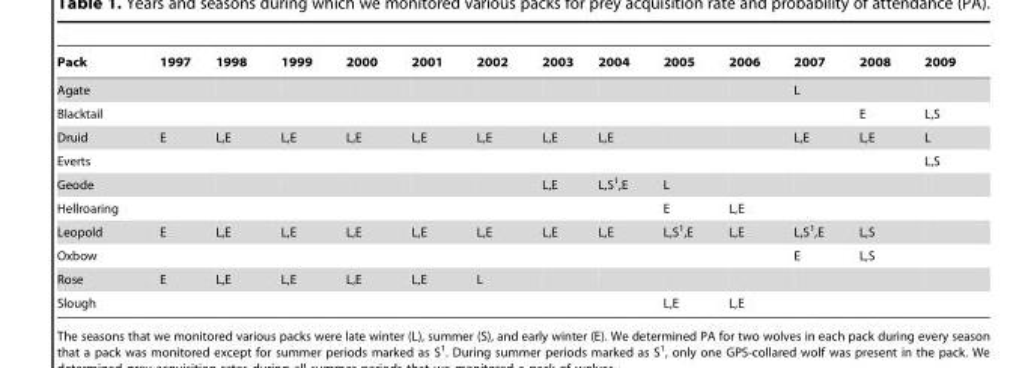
<table><thead><tr><td>Pack</td><td>1997</td><td>1998</td><td>1999</td><td>2000</td><td>2001</td><td>2002</td><td>2003</td><td>2004</td><td>2005</td><td>2006</td><td>2007</td><td>2008</td><td>2009</td></tr></thead><tbody><tr><td>Agate</td><td></td><td></td><td></td><td></td><td></td><td></td><td></td><td></td><td></td><td></td><td>L</td><td></td><td></td></tr><tr><td>Blacktail</td><td></td><td></td><td></td><td></td><td></td><td></td><td></td><td></td><td></td><td></td><td></td><td>E</td><td>L,S</td></tr><tr><td>Druid</td><td>E</td><td>L,E</td><td>L,E</td><td>L,E</td><td>L,E</td><td>L,E</td><td>L,E</td><td>L,E</td><td></td><td></td><td>L,E</td><td>L,E</td><td>L</td></tr><tr><td>Everts</td><td></td><td></td><td></td><td></td><td></td><td></td><td></td><td></td><td></td><td></td><td></td><td></td><td>L,S</td></tr><tr><td>Geode</td><td></td><td></td><td></td><td></td><td></td><td></td><td>L,E</td><td>L,S<sup>1</sup>,E</td><td>L</td><td></td><td></td><td></td><td></td></tr><tr><td>Hellroaring</td><td></td><td></td><td></td><td></td><td></td><td></td><td></td><td></td><td>E</td><td>L,E</td><td></td><td></td><td></td></tr><tr><td>Leopold</td><td>E</td><td>L,E</td><td>L,E</td><td>L,E</td><td>L,E</td><td>L,E</td><td>L,E</td><td>L,E</td><td>L,S<sup>1</sup>,E</td><td>L,E</td><td>L,S<sup>1</sup>,E</td><td>L,S</td><td></td></tr><tr><td>Oxbow</td><td></td><td></td><td></td><td></td><td></td><td></td><td></td><td></td><td></td><td></td><td>E</td><td>L,S</td><td></td></tr><tr><td>Rose</td><td>E</td><td>L,E</td><td>L,E</td><td>L,E</td><td>L,E</td><td>L</td><td></td><td></td><td></td><td></td><td></td><td></td><td></td></tr><tr><td>Slough</td><td></td><td></td><td></td><td></td><td></td><td></td><td></td><td></td><td>L,E</td><td>L,E</td><td></td><td></td><td></td></tr></tbody></table>